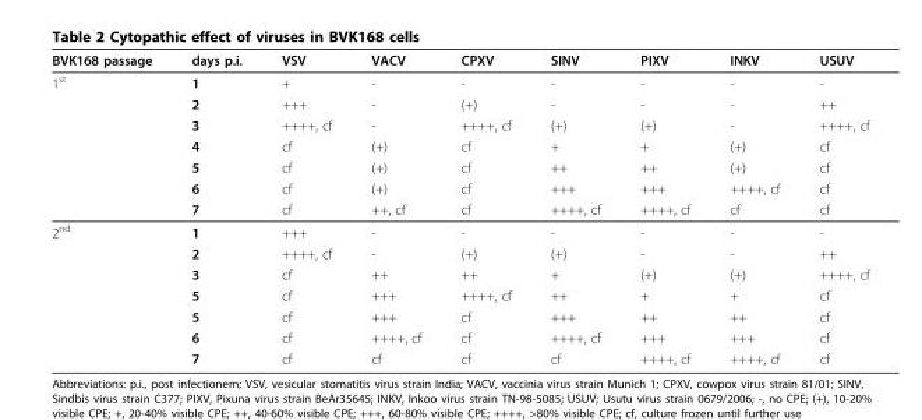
<table><thead><tr><td>BVK168 passage</td><td>days p.i.</td><td>VSV</td><td>VACV</td><td>CPXV</td><td>SINV</td><td>PIXV</td><td>INKV</td><td>USUV</td></tr></thead><tbody><tr><td rowspan="7">1<sup>st</sup></td><td>1</td><td>+</td><td>-</td><td>-</td><td>-</td><td>-</td><td>-</td><td>-</td></tr><tr><td>2</td><td>+++</td><td>-</td><td>(+)</td><td>-</td><td>-</td><td>-</td><td>++</td></tr><tr><td>3</td><td>++++, cf</td><td>-</td><td>++++, cf</td><td>(+)</td><td>(+)</td><td>-</td><td>++++, cf</td></tr><tr><td>4</td><td>cf</td><td>(+)</td><td>cf</td><td>+</td><td>+</td><td>(+)</td><td>cf</td></tr><tr><td>5</td><td>cf</td><td>(+)</td><td>cf</td><td>++</td><td>++</td><td>(+)</td><td>cf</td></tr><tr><td>6</td><td>cf</td><td>(+)</td><td>cf</td><td>+++</td><td>+++</td><td>++++, cf</td><td>cf</td></tr><tr><td>7</td><td>cf</td><td>++, cf</td><td>cf</td><td>++++, cf</td><td>++++, cf</td><td>cf</td><td>cf</td></tr><tr><td rowspan="7">2<sup>nd</sup></td><td>1</td><td>+++</td><td>-</td><td>-</td><td>-</td><td>-</td><td>-</td><td>-</td></tr><tr><td>2</td><td>++++, cf</td><td>-</td><td>(+)</td><td>(+)</td><td>-</td><td>-</td><td>++</td></tr><tr><td>3</td><td>cf</td><td>++</td><td>++</td><td>+</td><td>(+)</td><td>(+)</td><td>++++, cf</td></tr><tr><td>5</td><td>cf</td><td>+++</td><td>++++, cf</td><td>++</td><td>+</td><td>+</td><td>cf</td></tr><tr><td>5</td><td>cf</td><td>+++</td><td>cf</td><td>+++</td><td>++</td><td>++</td><td>cf</td></tr><tr><td>6</td><td>cf</td><td>++++, cf</td><td>cf</td><td>++++, cf</td><td>+++</td><td>+++</td><td>cf</td></tr><tr><td>7</td><td>cf</td><td>cf</td><td>cf</td><td>cf</td><td>++++, cf</td><td>++++, cf</td><td>cf</td></tr></tbody></table>